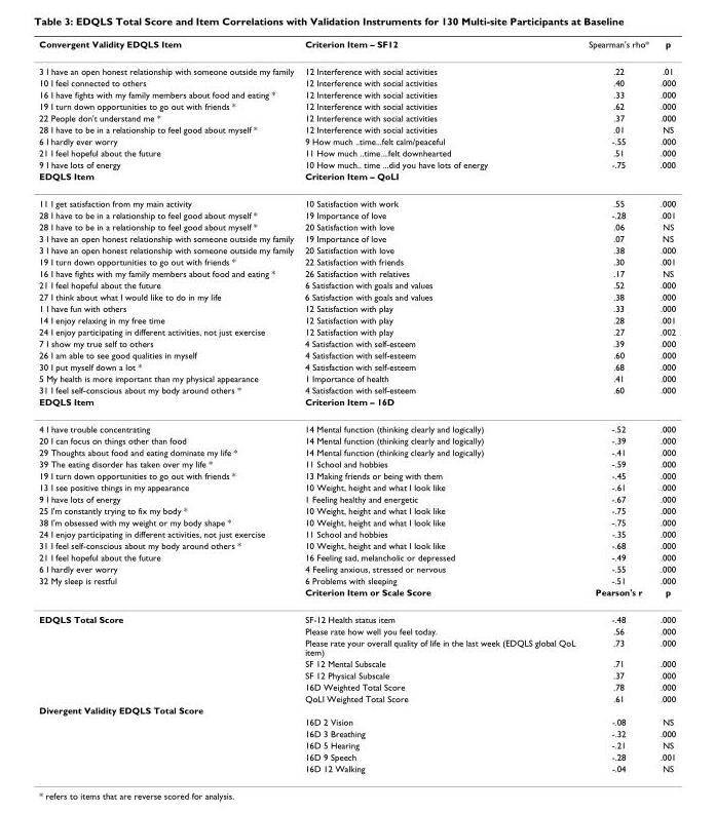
<table><thead><tr><td>Convergent Validity EDQLS Item</td><td>Criterion Item – SF12</td><td>Spearman&#x27;s rho*</td><td>p</td></tr></thead><tbody><tr><td>3 I have an open honest relationship with someone outside my family</td><td>12 Interference with social activities</td><td>.22</td><td>.01</td></tr><tr><td>10 I feel connected to others</td><td>12 Interference with social activities</td><td>.40</td><td>.000</td></tr><tr><td>16 I have fights with my family members about food and eating *</td><td>12 Interference with social activities</td><td>.33</td><td>.000</td></tr><tr><td>19 I turn down opportunities to go out with friends *</td><td>12 Interference with social activities</td><td>.62</td><td>.000</td></tr><tr><td>22 People don&#x27;t understand me *</td><td>12 Interference with social activities</td><td>.37</td><td>.000</td></tr><tr><td>28 I have to be in a relationship to feel good about myself *</td><td>12 Interference with social activities</td><td>.01</td><td>NS</td></tr><tr><td>6 I hardly ever worry</td><td>9 How much ..time...felt calm/peaceful</td><td>-.55</td><td>.000</td></tr><tr><td>21 I feel hopeful about the future</td><td>11 How much ..time....felt downhearted</td><td>.51</td><td>.000</td></tr><tr><td>9 I have lots of energy</td><td>10 How much.. time ...did you have lots of energy</td><td>-.75</td><td>.000</td></tr><tr><td>EDQLS Item</td><td>Criterion Item – QoLI</td><td></td><td></td></tr><tr><td>11 I get satisfaction from my main activity</td><td>10 Satisfaction with work</td><td>.55</td><td>.000</td></tr><tr><td>28 I have to be in a relationship to feel good about myself *</td><td>19 Importance of love</td><td>-.28</td><td>.001</td></tr><tr><td>28 I have to be in a relationship to feel good about myself *</td><td>20 Satisfaction with love</td><td>.06</td><td>NS</td></tr><tr><td>3 I have an open honest relationship with someone outside my family</td><td>19 Importance of love</td><td>.07</td><td>NS</td></tr><tr><td>3 I have an open honest relationship with someone outside my family</td><td>20 Satisfaction with love</td><td>.38</td><td>.000</td></tr><tr><td>19 I turn down opportunities to go out with friends *</td><td>22 Satisfaction with friends</td><td>.30</td><td>.001</td></tr><tr><td>16 I have fights with my family members about food and eating *</td><td>26 Satisfaction with relatives</td><td>.17</td><td>NS</td></tr><tr><td>21 I feel hopeful about the future</td><td>6 Satisfaction with goals and values</td><td>.52</td><td>.000</td></tr><tr><td>27 I think about what I would like to do in my life</td><td>6 Satisfaction with goals and values</td><td>.38</td><td>.000</td></tr><tr><td>1 I have fun with others</td><td>12 Satisfaction with play</td><td>.33</td><td>.000</td></tr><tr><td>14 I enjoy relaxing in my free time</td><td>12 Satisfaction with play</td><td>.28</td><td>.001</td></tr><tr><td>24 I enjoy participating in different activities, not just exercise</td><td>12 Satisfaction with play</td><td>.27</td><td>.002</td></tr><tr><td>7 I show my true self to others</td><td>4 Satisfaction with self-esteem</td><td>.39</td><td>.000</td></tr><tr><td>26 I am able to see good qualities in myself</td><td>4 Satisfaction with self-esteem</td><td>.60</td><td>.000</td></tr><tr><td>30 I put myself down a lot *</td><td>4 Satisfaction with self-esteem</td><td>.68</td><td>.000</td></tr><tr><td>5 My health is more important than my physical appearance</td><td>1 Importance of health</td><td>.41</td><td>.000</td></tr><tr><td>31 I feel self-conscious about my body around others *</td><td>4 Satisfaction with self-esteem</td><td>.60</td><td>.000</td></tr><tr><td>EDQLS Item</td><td>Criterion Item – 16D</td><td></td><td></td></tr><tr><td>4 I have trouble concentrating</td><td>14 Mental function (thinking clearly and logically)</td><td>-.52</td><td>.000</td></tr><tr><td>20 I can focus on things other than food</td><td>14 Mental function (thinking clearly and logically)</td><td>-.39</td><td>.000</td></tr><tr><td>29 Thoughts about food and eating dominate my life *</td><td>14 Mental function (thinking clearly and logically)</td><td>-.41</td><td>.000</td></tr><tr><td>39 The eating disorder has taken over my life *</td><td>11 School and hobbies</td><td>-.59</td><td>.000</td></tr><tr><td>19 I turn down opportunities to go out with friends *</td><td>13 Making friends or being with them</td><td>-.45</td><td>.000</td></tr><tr><td>13 I see positive things in my appearance</td><td>10 Weight, height and what I look like</td><td>-.61</td><td>.000</td></tr><tr><td>9 I have lots of energy</td><td>1 Feeling healthy and energetic</td><td>-.67</td><td>.000</td></tr><tr><td>25 I&#x27;m constantly trying to fix my body *</td><td>10 Weight, height and what I look like</td><td>-.75</td><td>.000</td></tr><tr><td>38 I&#x27;m obsessed with my weight or my body shape *</td><td>10 Weight, height and what I look like</td><td>-.75</td><td>.000</td></tr><tr><td>24 I enjoy participating in different activities, not just exercise</td><td>11 School and hobbies</td><td>-.35</td><td>.000</td></tr><tr><td>31 I feel self-conscious about my body around others *</td><td>10 Weight, height and what I look like</td><td>-.68</td><td>.000</td></tr><tr><td>21 I feel hopeful about the future</td><td>16 Feeling sad, melancholic or depressed</td><td>-.49</td><td>.000</td></tr><tr><td>6 I hardly ever worry</td><td>4 Feeling anxious, stressed or nervous</td><td>-.55</td><td>.000</td></tr><tr><td rowspan="2">32 My sleep is restful</td><td>6 Problems with sleeping</td><td>-.51</td><td>.000</td></tr><tr><td>Criterion Item or Scale Score</td><td>Pearson&#x27;s r</td><td>p</td></tr><tr><td rowspan="7">EDQLS Total Score</td><td>SF-12 Health status item</td><td>-.48</td><td>.000</td></tr><tr><td>Please rate how well you feel today.</td><td>.56</td><td>.000</td></tr><tr><td>Please rate your overall quality of life in the last week (EDQLS global QoL item)</td><td>.73</td><td>.000</td></tr><tr><td>SF 12 Mental Subscale</td><td>.71</td><td>.000</td></tr><tr><td>SF 12 Physical Subscale</td><td>.37</td><td>.000</td></tr><tr><td>16D Weighted Total Score</td><td>.78</td><td>.000</td></tr><tr><td>QoLI Weighted Total Score</td><td>.61</td><td>.000</td></tr><tr><td colspan="4">Divergent Validity EDQLS Total Score</td></tr><tr><td></td><td>16D 2 Vision</td><td>-.08</td><td>NS</td></tr><tr><td></td><td>16D 3 Breathing</td><td>-.32</td><td>.000</td></tr><tr><td></td><td>16D 5 Hearing</td><td>-.21</td><td>NS</td></tr><tr><td></td><td>16D 9 Speech</td><td>-.28</td><td>.001</td></tr><tr><td></td><td>16D 12 Walking</td><td>-.04</td><td>NS</td></tr></tbody></table>